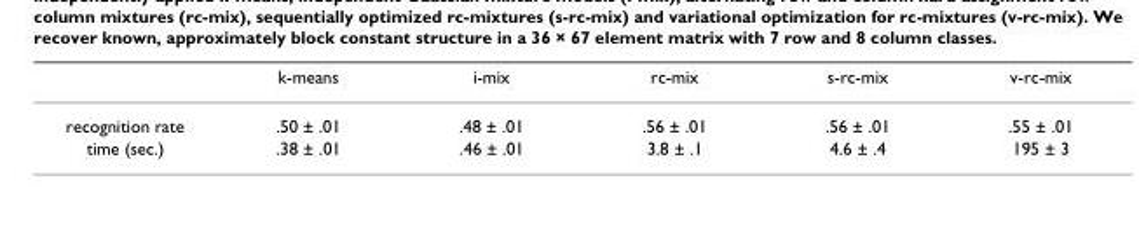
<table><thead><tr><td></td><td>k-means</td><td>i-mix</td><td>rc-mix</td><td>s-rc-mix</td><td>v-rc-mix</td></tr></thead><tbody><tr><td>recognition rate</td><td>.50 ± .01</td><td>.48 ± .01</td><td>.56 ± .01</td><td>.56 ± .01</td><td>.55 ± .01</td></tr><tr><td>time (sec.)</td><td>.38 ± .01</td><td>.46 ± .01</td><td>3.8 ± .1</td><td>4.6 ± .4</td><td>195 ± 3</td></tr></tbody></table>